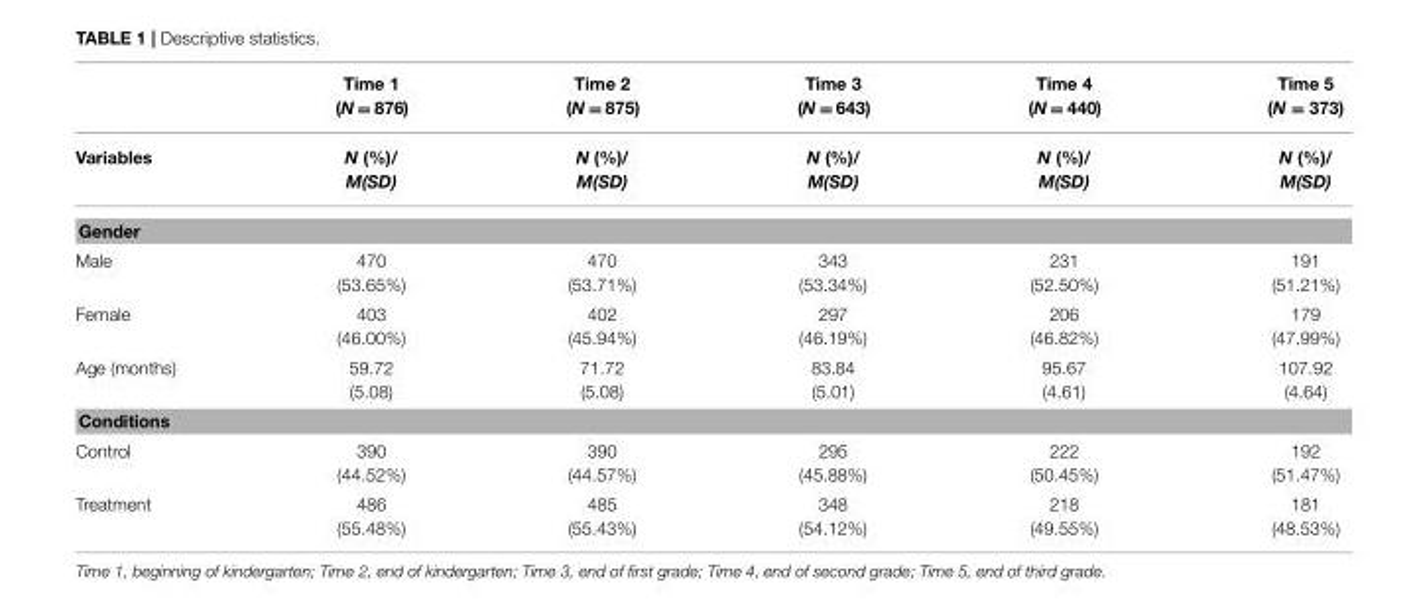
<table><thead><tr><td></td><td>Time 1 (N = 876)</td><td>Time 2 (N = 875)</td><td>Time 3 (N = 643)</td><td>Time 4 (N = 440)</td><td>Time 5 (N = 373)</td></tr></thead><tbody><tr><td>Variables</td><td>N (%)/ M(SD)</td><td>N (%)/ M(SD)</td><td>N (%)/ M(SD)</td><td>N (%)/ M(SD)</td><td>N (%)/ M(SD)</td></tr><tr><td colspan="6">Gender</td></tr><tr><td>Male</td><td>470 (53.65%)</td><td>470 (53.71%)</td><td>343 (53.34%)</td><td>231 (52.50%)</td><td>191 (51.21%)</td></tr><tr><td>Female</td><td>403 (46.00%)</td><td>402 (45.94%)</td><td>297 (46.19%)</td><td>206 (46.82%)</td><td>179 (47.99%)</td></tr><tr><td>Age (months)</td><td>59.72 (5.08)</td><td>71.72 (5.08)</td><td>83.84 (5.01)</td><td>95.67 (4.61)</td><td>107.92 (4.64)</td></tr><tr><td colspan="6">Conditions</td></tr><tr><td>Control</td><td>390 (44.52%)</td><td>390 (44.57%)</td><td>295 (45.88%)</td><td>222 (50.45%)</td><td>192 (51.47%)</td></tr><tr><td>Treatment</td><td>486 (55.48%)</td><td>485 (55.43%)</td><td>348 (54.12%)</td><td>218 (49.55%)</td><td>181 (48.53%)</td></tr></tbody></table>